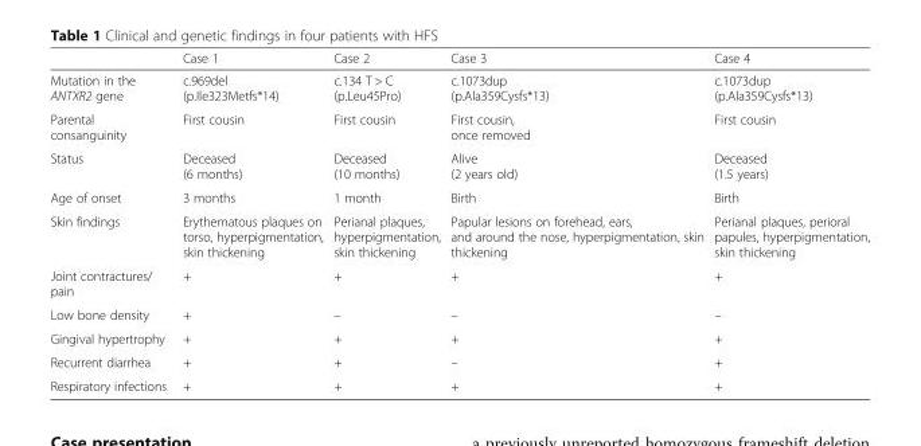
<table><thead><tr><td></td><td>Case 1</td><td>Case 2</td><td>Case 3</td><td>Case 4</td></tr></thead><tbody><tr><td>Mutation in the ANTXR2 gene</td><td>c.969del (p.Ile323Metfs*14)</td><td>c.134 T &gt; C (p.Leu45Pro)</td><td>c.1073dup (p.Ala359Cysfs*13)</td><td>c.1073dup (p.Ala359Cysfs*13)</td></tr><tr><td>Parental consanguinity</td><td>First cousin</td><td>First cousin</td><td>First cousin, once removed</td><td>First cousin</td></tr><tr><td>Status</td><td>Deceased (6 months)</td><td>Deceased (10 months)</td><td>Alive (2 years old)</td><td>Deceased (1.5 years)</td></tr><tr><td>Age of onset</td><td>3 months</td><td>1 month</td><td>Birth</td><td>Birth</td></tr><tr><td>Skin findings</td><td>Erythematous plaques on torso, hyperpigmentation, skin thickening</td><td>Perianal plaques, hyperpigmentation, skin thickening</td><td>Papular lesions on forehead, ears, and around the nose, hyperpigmentation, skin thickening</td><td>Perianal plaques, perioral papules, hyperpigmentation, skin thickening</td></tr><tr><td>Joint contractures/ pain</td><td>+</td><td>+</td><td>+</td><td>+</td></tr><tr><td>Low bone density</td><td>+</td><td>–</td><td>–</td><td>–</td></tr><tr><td>Gingival hypertrophy</td><td>+</td><td>+</td><td>+</td><td>+</td></tr><tr><td>Recurrent diarrhea</td><td>+</td><td>+</td><td>–</td><td>+</td></tr><tr><td>Respiratory infections</td><td>+</td><td>+</td><td>+</td><td>+</td></tr></tbody></table>